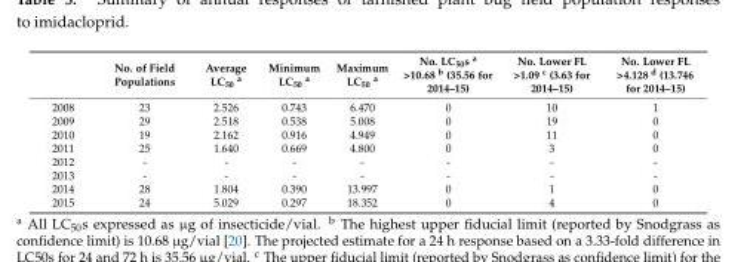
<table><thead><tr><td></td><td>No. of Field Populations</td><td>Average LC<sub>50</sub> <sup>a</sup></td><td>Minimum LC<sub>50</sub> <sup>a</sup></td><td>Maximum LC<sub>50</sub> <sup>a</sup></td><td>No. LC<sub>50</sub>s <sup>a</sup> &gt;10.68 <sup>b</sup> (35.56 for 2014–15)</td><td>No. Lower FL &gt;1.09 <sup>c</sup> (3.63 for 2014–15)</td><td>No. Lower FL &gt;4.128 <sup>d</sup> (13.746 for 2014–15)</td></tr></thead><tbody><tr><td>2008</td><td>23</td><td>2.526</td><td>0.743</td><td>6.470</td><td>0</td><td>10</td><td>1</td></tr><tr><td>2009</td><td>29</td><td>2.518</td><td>0.538</td><td>5.008</td><td>0</td><td>19</td><td>0</td></tr><tr><td>2010</td><td>19</td><td>2.162</td><td>0.916</td><td>4.949</td><td>0</td><td>11</td><td>0</td></tr><tr><td>2011</td><td>25</td><td>1.640</td><td>0.669</td><td>4.800</td><td>0</td><td>3</td><td>0</td></tr><tr><td>2012</td><td>-</td><td>-</td><td>-</td><td>-</td><td>-</td><td>-</td><td>-</td></tr><tr><td>2013</td><td>-</td><td>-</td><td>-</td><td>-</td><td>-</td><td>-</td><td>-</td></tr><tr><td>2014</td><td>28</td><td>1.804</td><td>0.390</td><td>13.997</td><td>0</td><td>1</td><td>0</td></tr><tr><td>2015</td><td>24</td><td>5.029</td><td>0.297</td><td>18.352</td><td>0</td><td>4</td><td>0</td></tr></tbody></table>